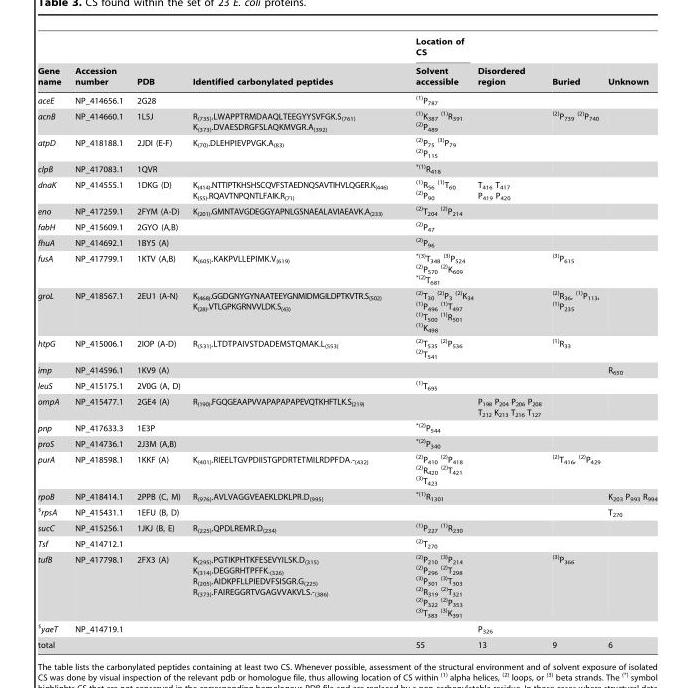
<table><thead><tr><td rowspan="2">Gene name</td><td rowspan="2">Accession number</td><td rowspan="2">PDB</td><td rowspan="2">Identified carbonylated peptides</td><td rowspan="2">Location of CS Solvent accessible</td><td rowspan="2">Disordered region</td><td rowspan="2">Buried</td><td rowspan="2">Unknown</td></tr><tr></tr></thead><tbody><tr><td>aceE</td><td>NP_414656.1</td><td>2G28</td><td></td><td><sup>(1)</sup>P<sub>787</sub></td><td></td><td></td><td></td></tr><tr><td>acnB</td><td>NP_414660.1</td><td>1L5J</td><td>R<sub>(735)</sub>.LWAPPTRMDAAQLTEEGYYSVFGK.S<sub>(761)</sub> K<sub>(373)</sub>.DVAESDRGFSLAQKMVGR.A<sub>(392)</sub></td><td><sup>(1)</sup>K<sub>387</sub> <sup>(1)</sup>R<sub>391</sub> <sup>(2)</sup>P<sub>489</sub></td><td></td><td><sup>(2)</sup>P<sub>739</sub> <sup>(2)</sup>P<sub>740</sub></td><td></td></tr><tr><td>atpD</td><td>NP_418188.1</td><td>2JDI (E-F)</td><td>K<sub>(70)</sub>.DLEHPIEVPVGK.A<sub>(83)</sub></td><td><sup>(2)</sup>P<sub>75</sub> <sup>(3)</sup>P<sub>79</sub> <sup>(2)</sup>P<sub>115</sub></td><td></td><td></td><td></td></tr><tr><td>clpB</td><td>NP_417083.1</td><td>1QVR</td><td></td><td><sup>*(1)</sup>R<sub>418</sub></td><td></td><td></td><td></td></tr><tr><td>dnaK</td><td>NP_414555.1</td><td>1DKG (D)</td><td>K<sub>(414)</sub>.NTTIPTKHSHSCQVFSTAEDNQSAVTIHVLQGER.K<sub>(446)</sub> K<sub>(55)</sub>.RQAVTNPQNTLFAIK.R<sub>(71)</sub></td><td><sup>(1)</sup>R<sub>56</sub> <sup>(1)</sup>T<sub>60</sub> <sup>(2)</sup>P<sub>90</sub></td><td>T<sub>416</sub> T<sub>417</sub> P<sub>419</sub> P<sub>420</sub></td><td></td><td></td></tr><tr><td>eno</td><td>NP_417259.1</td><td>2FYM (A-D)</td><td>K<sub>(201)</sub>.GMNTAVGDEGGYAPNLGSNAEALAVIAEAVK.A<sub>(233)</sub></td><td><sup>(2)</sup>T<sub>204</sub> <sup>(2)</sup>P<sub>214</sub></td><td></td><td></td><td></td></tr><tr><td>fabH</td><td>NP_415609.1</td><td>2GYO (A,B)</td><td></td><td><sup>(2)</sup>P<sub>47</sub></td><td></td><td></td><td></td></tr><tr><td>fhuA</td><td>NP_414692.1</td><td>1BY5 (A)</td><td></td><td><sup>(2)</sup>P<sub>96</sub></td><td></td><td></td><td></td></tr><tr><td>fusA</td><td>NP_417799.1</td><td>1KTV (A,B)</td><td>K<sub>(605)</sub>.KAKPVLLEPIMK.V<sub>(619)</sub></td><td><sup>*(3)</sup>T<sub>348</sub> <sup>(3)</sup>P<sub>524</sub> <sup>(2)</sup>P<sub>570</sub> <sup>(2)</sup>K<sub>609</sub> <sup>*(2)</sup>T<sub>681</sub></td><td></td><td><sup>(3)</sup>P<sub>615</sub></td><td></td></tr><tr><td>groL</td><td>NP_418567.1</td><td>2EU1 (A-N)</td><td>K<sub>(468)</sub>.GGDGNYGYNAATEEYGNMIDMGILDPTKVTR.S<sub>(502)</sub> K<sub>(28)</sub>.VTLGPKGRNVVLDK.S<sub>(43)</sub></td><td><sup>(2)</sup>T<sub>30</sub> <sup>(2)</sup>P<sub>3</sub> <sup>(2)</sup>K<sub>34</sub> <sup>(1)</sup>P<sub>496</sub> <sup>(1)</sup>T<sub>497</sub> <sup>(1)</sup>T<sub>500</sub> <sup>(1)</sup>R<sub>501</sub> <sup>(1)</sup>K<sub>498</sub></td><td></td><td><sup>(2)</sup>R<sub>36</sub>, <sup>(1)</sup>P<sub>113</sub>, <sup>(1)</sup>P<sub>235</sub></td><td></td></tr><tr><td>htpG</td><td>NP_415006.1</td><td>2IOP (A-D)</td><td>R<sub>(531)</sub>.LTDTPAIVSTDADEMSTQMAK.L<sub>(553)</sub></td><td><sup>(2)</sup>T<sub>535</sub> <sup>(2)</sup>P<sub>536</sub> <sup>(2)</sup>T<sub>541</sub></td><td></td><td><sup>(1)</sup>R<sub>33</sub></td><td></td></tr><tr><td>imp</td><td>NP_414596.1</td><td>1KV9 (A)</td><td></td><td></td><td></td><td></td><td>R<sub>650</sub></td></tr><tr><td>leuS</td><td>NP_415175.1</td><td>2V0G (A, D)</td><td></td><td><sup>(1)</sup>T<sub>695</sub></td><td></td><td></td><td></td></tr><tr><td>ompA</td><td>NP_415477.1</td><td>2GE4 (A)</td><td>R<sub>(190)</sub>.FGQGEAAPVVAPAPAPAPEVQTKHFTLK.S<sub>(219)</sub></td><td></td><td>P<sub>198</sub> P<sub>204</sub> P<sub>206</sub> P<sub>208</sub> T<sub>212</sub> K<sub>213</sub> T<sub>216</sub> T<sub>127</sub></td><td></td><td></td></tr><tr><td>pnp</td><td>NP_417633.3</td><td>1E3P</td><td></td><td><sup>*(2)</sup>P<sub>544</sub></td><td></td><td></td><td></td></tr><tr><td>proS</td><td>NP_414736.1</td><td>2J3M (A,B)</td><td></td><td><sup>*(2)</sup>P<sub>340</sub></td><td></td><td></td><td></td></tr><tr><td>purA</td><td>NP_418598.1</td><td>1KKF (A)</td><td>K<sub>(401)</sub>.RIEELTGVPDIISTGPDRTETMILRDPFDA.-<sub>(432)</sub></td><td><sup>(2)</sup>P<sub>410</sub> <sup>(2)</sup>P<sub>418</sub> <sup>(2)</sup>R<sub>420</sub> <sup>(2)</sup>T<sub>421</sub> <sup>(3)</sup>T<sub>423</sub></td><td></td><td><sup>(2)</sup>T<sub>416</sub>, <sup>(2)</sup>P<sub>429</sub></td><td></td></tr><tr><td>rpoB</td><td>NP_418414.1</td><td>2PPB (C, M)</td><td>R<sub>(976)</sub>.AVLVAGGVEAEKLDKLPR.D<sub>(995)</sub></td><td><sup>*(1)</sup>R<sub>1301</sub></td><td></td><td></td><td>K<sub>203</sub> P<sub>993</sub> R<sub>994</sub></td></tr><tr><td><sup>▒</sup>rpsA</td><td>NP_415431.1</td><td>1EFU (B, D)</td><td></td><td></td><td></td><td></td><td>T<sub>270</sub></td></tr><tr><td>sucC</td><td>NP_415256.1</td><td>1JKJ (B, E)</td><td>R<sub>(225)</sub>.QPDLREMR.D<sub>(234)</sub></td><td><sup>(1)</sup>P<sub>227</sub> <sup>(1)</sup>R<sub>230</sub></td><td></td><td></td><td></td></tr><tr><td>Tsf</td><td>NP_414712.1</td><td></td><td></td><td><sup>(2)</sup>T<sub>270</sub></td><td></td><td></td><td></td></tr><tr><td>tufB</td><td>NP_417798.1</td><td>2FX3 (A)</td><td>K<sub>(295)</sub>.PGTIKPHTKFESEVYILSK.D<sub>(315)</sub> K<sub>(314)</sub>.DEGGRHTPFFK.<sub>(326)</sub> R<sub>(205)</sub>.AIDKPFLLPIEDVFSISGR.G<sub>(225)</sub> R<sub>(373)</sub>.FAIREGGRTVGAGVVAKVLS.-<sub>(386)</sub></td><td><sup>(2)</sup>P<sub>210</sub> <sup>(3)</sup>P<sub>214</sub> <sup>(2)</sup>P<sub>296</sub> <sup>(2)</sup>T<sub>298</sub> <sup>(3)</sup>P<sub>301</sub> <sup>(3)</sup>T<sub>303</sub> <sup>(2)</sup>R<sub>319</sub> <sup>(2)</sup>T<sub>321</sub> <sup>(2)</sup>P<sub>322</sub> <sup>(2)</sup>P<sub>353</sub> <sup>(3)</sup>T<sub>383</sub> <sup>(3)</sup>K<sub>391</sub></td><td></td><td><sup>(3)</sup>P<sub>366</sub></td><td></td></tr><tr><td><sup>▒</sup>yaeT</td><td>NP_414719.1</td><td></td><td></td><td></td><td>P<sub>326</sub></td><td></td><td></td></tr><tr><td>total</td><td></td><td></td><td></td><td>55</td><td>13</td><td>9</td><td>6</td></tr></tbody></table>